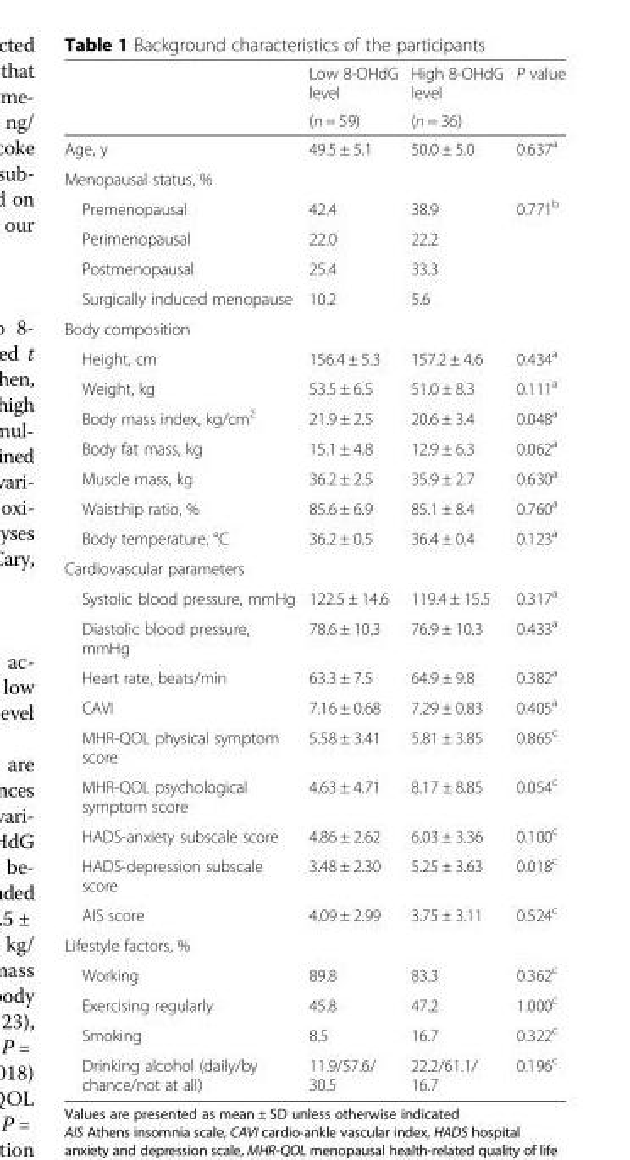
<table><thead><tr><td rowspan="2"></td><td rowspan="2">Low 8-OHdG level (n = 59)</td><td rowspan="2">High 8-OHdG level (n = 36)</td><td rowspan="2">P value</td></tr><tr></tr></thead><tbody><tr><td>Age, y</td><td>49.5 ± 5.1</td><td>50.0 ± 5.0</td><td>0.637<sup>a</sup></td></tr><tr><td colspan="4">Menopausal status, %</td></tr><tr><td>Premenopausal</td><td>42.4</td><td>38.9</td><td rowspan="4">0.771<sup>b</sup></td></tr><tr><td>Perimenopausal</td><td>22.0</td><td>22.2</td></tr><tr><td>Postmenopausal</td><td>25.4</td><td>33.3</td></tr><tr><td>Surgically induced menopause</td><td>10.2</td><td>5.6</td></tr><tr><td colspan="4">Body composition</td></tr><tr><td>Height, cm</td><td>156.4 ± 5.3</td><td>157.2 ± 4.6</td><td>0.434<sup>a</sup></td></tr><tr><td>Weight, kg</td><td>53.5 ± 6.5</td><td>51.0 ± 8.3</td><td>0.111<sup>a</sup></td></tr><tr><td>Body mass index, kg/cm<sup>2</sup></td><td>21.9 ± 2.5</td><td>20.6 ± 3.4</td><td>0.048<sup>a</sup></td></tr><tr><td>Body fat mass, kg</td><td>15.1 ± 4.8</td><td>12.9 ± 6.3</td><td>0.062<sup>a</sup></td></tr><tr><td>Muscle mass, kg</td><td>36.2 ± 2.5</td><td>35.9 ± 2.7</td><td>0.630<sup>a</sup></td></tr><tr><td>Waist:hip ratio, %</td><td>85.6 ± 6.9</td><td>85.1 ± 8.4</td><td>0.760<sup>a</sup></td></tr><tr><td>Body temperature, °C</td><td>36.2 ± 0.5</td><td>36.4 ± 0.4</td><td>0.123<sup>a</sup></td></tr><tr><td colspan="4">Cardiovascular parameters</td></tr><tr><td>Systolic blood pressure, mmHg</td><td>122.5 ± 14.6</td><td>119.4 ± 15.5</td><td>0.317<sup>a</sup></td></tr><tr><td>Diastolic blood pressure, mmHg</td><td>78.6 ± 10.3</td><td>76.9 ± 10.3</td><td>0.433<sup>a</sup></td></tr><tr><td>Heart rate, beats/min</td><td>63.3 ± 7.5</td><td>64.9 ± 9.8</td><td>0.382<sup>a</sup></td></tr><tr><td>CAVI</td><td>7.16 ± 0.68</td><td>7.29 ± 0.83</td><td>0.405<sup>a</sup></td></tr><tr><td>MHR-QOL physical symptom score</td><td>5.58 ± 3.41</td><td>5.81 ± 3.85</td><td>0.865<sup>c</sup></td></tr><tr><td>MHR-QOL psychological symptom score</td><td>4.63 ± 4.71</td><td>8.17 ± 8.85</td><td>0.054<sup>c</sup></td></tr><tr><td>HADS-anxiety subscale score</td><td>4.86 ± 2.62</td><td>6.03 ± 3.36</td><td>0.100<sup>c</sup></td></tr><tr><td>HADS-depression subscale score</td><td>3.48 ± 2.30</td><td>5.25 ± 3.63</td><td>0.018<sup>c</sup></td></tr><tr><td>AIS score</td><td>4.09 ± 2.99</td><td>3.75 ± 3.11</td><td>0.524<sup>c</sup></td></tr><tr><td colspan="4">Lifestyle factors, %</td></tr><tr><td>Working</td><td>89.8</td><td>83.3</td><td>0.362<sup>c</sup></td></tr><tr><td>Exercising regularly</td><td>45.8</td><td>47.2</td><td>1.000<sup>c</sup></td></tr><tr><td>Smoking</td><td>8.5</td><td>16.7</td><td>0.322<sup>c</sup></td></tr><tr><td>Drinking alcohol (daily/by chance/not at all)</td><td>11.9/57.6/ 30.5</td><td>22.2/61.1/ 16.7</td><td>0.196<sup>c</sup></td></tr></tbody></table>